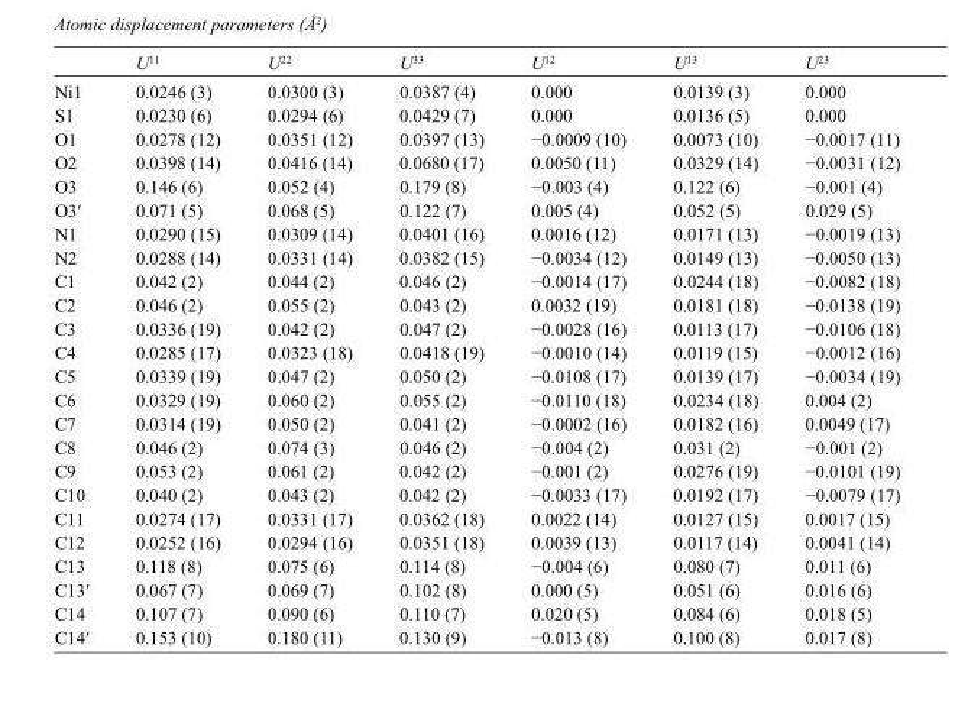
<table><thead><tr><td></td><td>U<sup>11</sup></td><td>U<sup>22</sup></td><td>U<sup>33</sup></td><td>U<sup>12</sup></td><td>U<sup>13</sup></td><td>U<sup>23</sup></td></tr></thead><tbody><tr><td>Ni1</td><td>0.0246 (3)</td><td>0.0300 (3)</td><td>0.0387 (4)</td><td>0.000</td><td>0.0139 (3)</td><td>0.000</td></tr><tr><td>S1</td><td>0.0230 (6)</td><td>0.0294 (6)</td><td>0.0429 (7)</td><td>0.000</td><td>0.0136 (5)</td><td>0.000</td></tr><tr><td>O1</td><td>0.0278 (12)</td><td>0.0351 (12)</td><td>0.0397 (13)</td><td>−0.0009 (10)</td><td>0.0073 (10)</td><td>−0.0017 (11)</td></tr><tr><td>O2</td><td>0.0398 (14)</td><td>0.0416 (14)</td><td>0.0680 (17)</td><td>0.0050 (11)</td><td>0.0329 (14)</td><td>−0.0031 (12)</td></tr><tr><td>O3</td><td>0.146 (6)</td><td>0.052 (4)</td><td>0.179 (8)</td><td>−0.003 (4)</td><td>0.122 (6)</td><td>−0.001 (4)</td></tr><tr><td>O3′</td><td>0.071 (5)</td><td>0.068 (5)</td><td>0.122 (7)</td><td>0.005 (4)</td><td>0.052 (5)</td><td>0.029 (5)</td></tr><tr><td>N1</td><td>0.0290 (15)</td><td>0.0309 (14)</td><td>0.0401 (16)</td><td>0.0016 (12)</td><td>0.0171 (13)</td><td>−0.0019 (13)</td></tr><tr><td>N2</td><td>0.0288 (14)</td><td>0.0331 (14)</td><td>0.0382 (15)</td><td>−0.0034 (12)</td><td>0.0149 (13)</td><td>−0.0050 (13)</td></tr><tr><td>C1</td><td>0.042 (2)</td><td>0.044 (2)</td><td>0.046 (2)</td><td>−0.0014 (17)</td><td>0.0244 (18)</td><td>−0.0082 (18)</td></tr><tr><td>C2</td><td>0.046 (2)</td><td>0.055 (2)</td><td>0.043 (2)</td><td>0.0032 (19)</td><td>0.0181 (18)</td><td>−0.0138 (19)</td></tr><tr><td>C3</td><td>0.0336 (19)</td><td>0.042 (2)</td><td>0.047 (2)</td><td>−0.0028 (16)</td><td>0.0113 (17)</td><td>−0.0106 (18)</td></tr><tr><td>C4</td><td>0.0285 (17)</td><td>0.0323 (18)</td><td>0.0418 (19)</td><td>−0.0010 (14)</td><td>0.0119 (15)</td><td>−0.0012 (16)</td></tr><tr><td>C5</td><td>0.0339 (19)</td><td>0.047 (2)</td><td>0.050 (2)</td><td>−0.0108 (17)</td><td>0.0139 (17)</td><td>−0.0034 (19)</td></tr><tr><td>C6</td><td>0.0329 (19)</td><td>0.060 (2)</td><td>0.055 (2)</td><td>−0.0110 (18)</td><td>0.0234 (18)</td><td>0.004 (2)</td></tr><tr><td>C7</td><td>0.0314 (19)</td><td>0.050 (2)</td><td>0.041 (2)</td><td>−0.0002 (16)</td><td>0.0182 (16)</td><td>0.0049 (17)</td></tr><tr><td>C8</td><td>0.046 (2)</td><td>0.074 (3)</td><td>0.046 (2)</td><td>−0.004 (2)</td><td>0.031 (2)</td><td>−0.001 (2)</td></tr><tr><td>C9</td><td>0.053 (2)</td><td>0.061 (2)</td><td>0.042 (2)</td><td>−0.001 (2)</td><td>0.0276 (19)</td><td>−0.0101 (19)</td></tr><tr><td>C10</td><td>0.040 (2)</td><td>0.043 (2)</td><td>0.042 (2)</td><td>−0.0033 (17)</td><td>0.0192 (17)</td><td>−0.0079 (17)</td></tr><tr><td>C11</td><td>0.0274 (17)</td><td>0.0331 (17)</td><td>0.0362 (18)</td><td>0.0022 (14)</td><td>0.0127 (15)</td><td>0.0017 (15)</td></tr><tr><td>C12</td><td>0.0252 (16)</td><td>0.0294 (16)</td><td>0.0351 (18)</td><td>0.0039 (13)</td><td>0.0117 (14)</td><td>0.0041 (14)</td></tr><tr><td>C13</td><td>0.118 (8)</td><td>0.075 (6)</td><td>0.114 (8)</td><td>−0.004 (6)</td><td>0.080 (7)</td><td>0.011 (6)</td></tr><tr><td>C13′</td><td>0.067 (7)</td><td>0.069 (7)</td><td>0.102 (8)</td><td>0.000 (5)</td><td>0.051 (6)</td><td>0.016 (6)</td></tr><tr><td>C14</td><td>0.107 (7)</td><td>0.090 (6)</td><td>0.110 (7)</td><td>0.020 (5)</td><td>0.084 (6)</td><td>0.018 (5)</td></tr><tr><td>C14′</td><td>0.153 (10)</td><td>0.180 (11)</td><td>0.130 (9)</td><td>−0.013 (8)</td><td>0.100 (8)</td><td>0.017 (8)</td></tr></tbody></table>